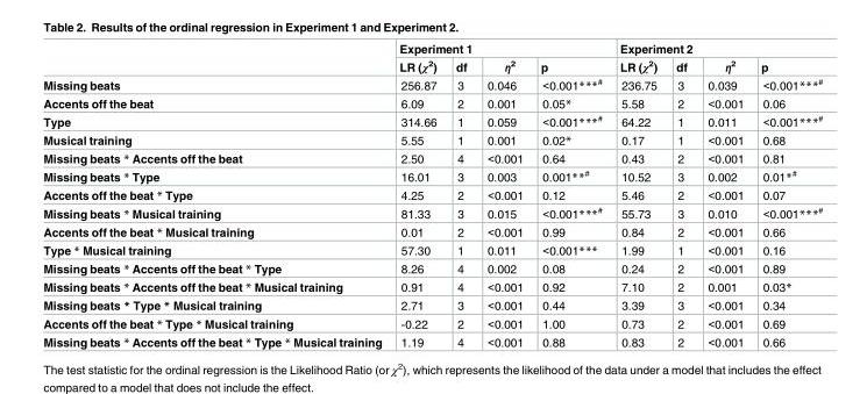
<table><thead><tr><td rowspan="2"></td><td colspan="4">Experiment 1</td><td colspan="4">Experiment 2</td></tr><tr><td>LR (χ<sup>2</sup>)</td><td>df</td><td>η<sup>2</sup></td><td>p</td><td>LR (χ<sup>2</sup>)</td><td>df</td><td>η<sup>2</sup></td><td>p</td></tr></thead><tbody><tr><td>Missing beats</td><td>256.87</td><td>3</td><td>0.046</td><td>&lt;0.001***<sup>#</sup></td><td>236.75</td><td>3</td><td>0.039</td><td>&lt;0.001***<sup>#</sup></td></tr><tr><td>Accents off the beat</td><td>6.09</td><td>2</td><td>0.001</td><td>0.05*</td><td>5.58</td><td>2</td><td>&lt;0.001</td><td>0.06</td></tr><tr><td>Type</td><td>314.66</td><td>1</td><td>0.059</td><td>&lt;0.001***<sup>#</sup></td><td>64.22</td><td>1</td><td>0.011</td><td>&lt;0.001***<sup>#</sup></td></tr><tr><td>Musical training</td><td>5.55</td><td>1</td><td>0.001</td><td>0.02*</td><td>0.17</td><td>1</td><td>&lt;0.001</td><td>0.68</td></tr><tr><td>Missing beats * Accents off the beat</td><td>2.50</td><td>4</td><td>&lt;0.001</td><td>0.64</td><td>0.43</td><td>2</td><td>&lt;0.001</td><td>0.81</td></tr><tr><td>Missing beats * Type</td><td>16.01</td><td>3</td><td>0.003</td><td>0.001**<sup>#</sup></td><td>10.52</td><td>3</td><td>0.002</td><td>0.01*<sup>#</sup></td></tr><tr><td>Accents off the beat * Type</td><td>4.25</td><td>2</td><td>&lt;0.001</td><td>0.12</td><td>5.46</td><td>2</td><td>&lt;0.001</td><td>0.07</td></tr><tr><td>Missing beats * Musical training</td><td>81.33</td><td>3</td><td>0.015</td><td>&lt;0.001***<sup>#</sup></td><td>55.73</td><td>3</td><td>0.010</td><td>&lt;0.001***<sup>#</sup></td></tr><tr><td>Accents off the beat * Musical training</td><td>0.01</td><td>2</td><td>&lt;0.001</td><td>0.99</td><td>0.84</td><td>2</td><td>&lt;0.001</td><td>0.66</td></tr><tr><td>Type * Musical training</td><td>57.30</td><td>1</td><td>0.011</td><td>&lt;0.001***</td><td>1.99</td><td>1</td><td>&lt;0.001</td><td>0.16</td></tr><tr><td>Missing beats * Accents off the beat * Type</td><td>8.26</td><td>4</td><td>0.002</td><td>0.08</td><td>0.24</td><td>2</td><td>&lt;0.001</td><td>0.89</td></tr><tr><td>Missing beats * Accents off the beat * Musical training</td><td>0.91</td><td>4</td><td>&lt;0.001</td><td>0.92</td><td>7.10</td><td>2</td><td>0.001</td><td>0.03*</td></tr><tr><td>Missing beats * Type * Musical training</td><td>2.71</td><td>3</td><td>&lt;0.001</td><td>0.44</td><td>3.39</td><td>3</td><td>&lt;0.001</td><td>0.34</td></tr><tr><td>Accents off the beat * Type * Musical training</td><td>-0.22</td><td>2</td><td>&lt;0.001</td><td>1.00</td><td>0.73</td><td>2</td><td>&lt;0.001</td><td>0.69</td></tr><tr><td>Missing beats * Accents off the beat * Type * Musical training</td><td>1.19</td><td>4</td><td>&lt;0.001</td><td>0.88</td><td>0.83</td><td>2</td><td>&lt;0.001</td><td>0.66</td></tr></tbody></table>